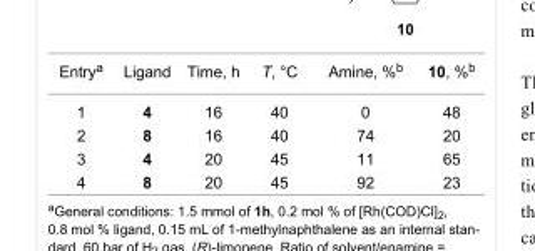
<table><tbody><tr><td>Entry<sup>a</sup></td><td>Ligand</td><td>Time, h</td><td>T, °C</td><td>Amine, %<sup>b</sup></td><td>10, %<sup>b</sup></td></tr><tr><td>1</td><td>4</td><td>16</td><td>40</td><td>0</td><td>48</td></tr><tr><td>2</td><td>8</td><td>16</td><td>40</td><td>74</td><td>20</td></tr><tr><td>3</td><td>4</td><td>20</td><td>45</td><td>11</td><td>65</td></tr><tr><td>4</td><td>8</td><td>20</td><td>45</td><td>92</td><td>23</td></tr></tbody></table>